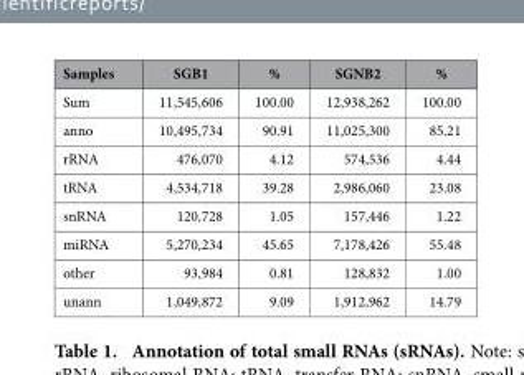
<table><thead><tr><td>Samples</td><td>SGB1</td><td>%</td><td>SGNB2</td><td>%</td></tr></thead><tbody><tr><td>Sum</td><td>11,545,606</td><td>100.00</td><td>12,938,262</td><td>100.00</td></tr><tr><td>anno</td><td>10,495,734</td><td>90.91</td><td>11,025,300</td><td>85.21</td></tr><tr><td>rRNA</td><td>476,070</td><td>4.12</td><td>574,536</td><td>4.44</td></tr><tr><td>tRNA</td><td>4,534,718</td><td>39.28</td><td>2,986,060</td><td>23.08</td></tr><tr><td>snRNA</td><td>120,728</td><td>1.05</td><td>157,446</td><td>1.22</td></tr><tr><td>miRNA</td><td>5,270,234</td><td>45.65</td><td>7,178,426</td><td>55.48</td></tr><tr><td>other</td><td>93,984</td><td>0.81</td><td>128,832</td><td>1.00</td></tr><tr><td>unann</td><td>1,049,872</td><td>9.09</td><td>1,912,962</td><td>14.79</td></tr></tbody></table>